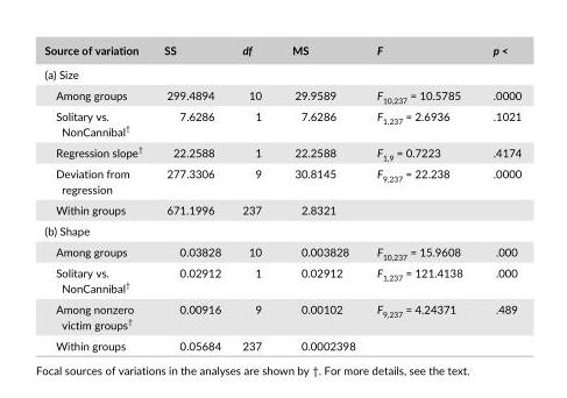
<table><thead><tr><td>Source of variation</td><td>SS</td><td>df</td><td>MS</td><td>F</td><td>p &lt;</td></tr></thead><tbody><tr><td colspan="6">(a) Size</td></tr><tr><td>Among groups</td><td>299.4894</td><td>10</td><td>29.9589</td><td>F<sub>10,237</sub> = 10.5785</td><td>.0000</td></tr><tr><td>Solitary vs. NonCannibal†</td><td>7.6286</td><td>1</td><td>7.6286</td><td>F<sub>1,237</sub> = 2.6936</td><td>.1021</td></tr><tr><td>Regression slope†</td><td>22.2588</td><td>1</td><td>22.2588</td><td>F<sub>1,9</sub> = 0.7223</td><td>.4174</td></tr><tr><td>Deviation from regression</td><td>277.3306</td><td>9</td><td>30.8145</td><td>F<sub>9,237</sub> = 22.238</td><td>.0000</td></tr><tr><td>Within groups</td><td>671.1996</td><td>237</td><td>2.8321</td><td></td><td></td></tr><tr><td colspan="6">(b) Shape</td></tr><tr><td>Among groups</td><td>0.03828</td><td>10</td><td>0.003828</td><td>F<sub>10,237</sub> = 15.9608</td><td>.000</td></tr><tr><td>Solitary vs. NonCannibal†</td><td>0.02912</td><td>1</td><td>0.02912</td><td>F<sub>1,237</sub> = 121.4138</td><td>.000</td></tr><tr><td>Among nonzero victim groups†</td><td>0.00916</td><td>9</td><td>0.00102</td><td>F<sub>9,237</sub> = 4.24371</td><td>.489</td></tr><tr><td>Within groups</td><td>0.05684</td><td>237</td><td>0.0002398</td><td></td><td></td></tr></tbody></table>